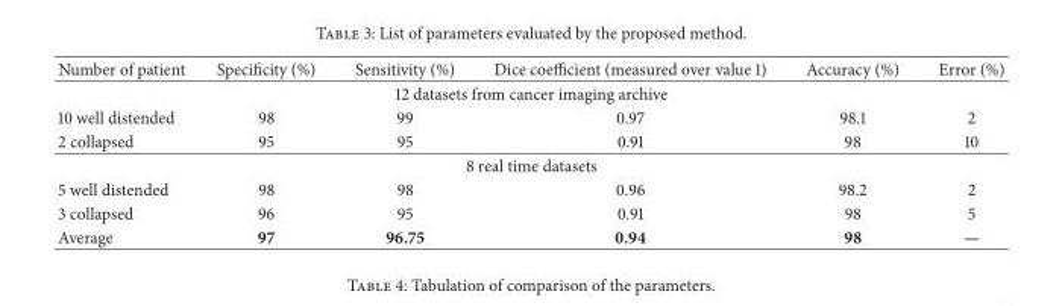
<table><thead><tr><td>Number of patient</td><td>Specificity (%)</td><td>Sensitivity (%)</td><td>Dice coefficient (measured over value 1)</td><td>Accuracy (%)</td><td>Error (%)</td></tr></thead><tbody><tr><td colspan="6">12 datasets from cancer imaging archive</td></tr><tr><td>10 well distended</td><td>98</td><td>99</td><td>0.97</td><td>98.1</td><td>2</td></tr><tr><td>2 collapsed</td><td>95</td><td>95</td><td>0.91</td><td>98</td><td>10</td></tr><tr><td colspan="6">8 real time datasets</td></tr><tr><td>5 well distended</td><td>98</td><td>98</td><td>0.96</td><td>98.2</td><td>2</td></tr><tr><td>3 collapsed</td><td>96</td><td>95</td><td>0.91</td><td>98</td><td>5</td></tr><tr><td>Average</td><td>97</td><td>96.75</td><td>0.94</td><td>98</td><td>—</td></tr></tbody></table>